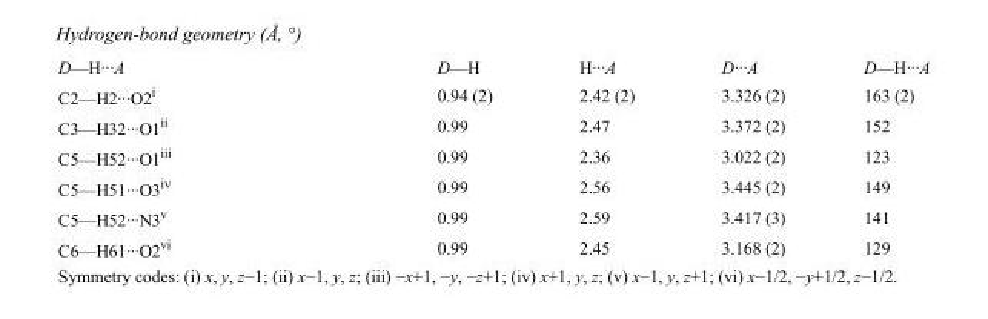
<table><tbody><tr><td>D—H···A</td><td>D—H</td><td>H···A</td><td>D···A</td><td>D—H···A</td></tr><tr><td>C2—H2···O2<sup>i</sup></td><td>0.94 (2)</td><td>2.42 (2)</td><td>3.326 (2)</td><td>163 (2)</td></tr><tr><td>C3—H32···O1<sup>ii</sup></td><td>0.99</td><td>2.47</td><td>3.372 (2)</td><td>152</td></tr><tr><td>C5—H52···O1<sup>iii</sup></td><td>0.99</td><td>2.36</td><td>3.022 (2)</td><td>123</td></tr><tr><td>C5—H51···O3<sup>iv</sup></td><td>0.99</td><td>2.56</td><td>3.445 (2)</td><td>149</td></tr><tr><td>C5—H52···N3<sup>v</sup></td><td>0.99</td><td>2.59</td><td>3.417 (3)</td><td>141</td></tr><tr><td>C6—H61···O2<sup>vi</sup></td><td>0.99</td><td>2.45</td><td>3.168 (2)</td><td>129</td></tr></tbody></table>